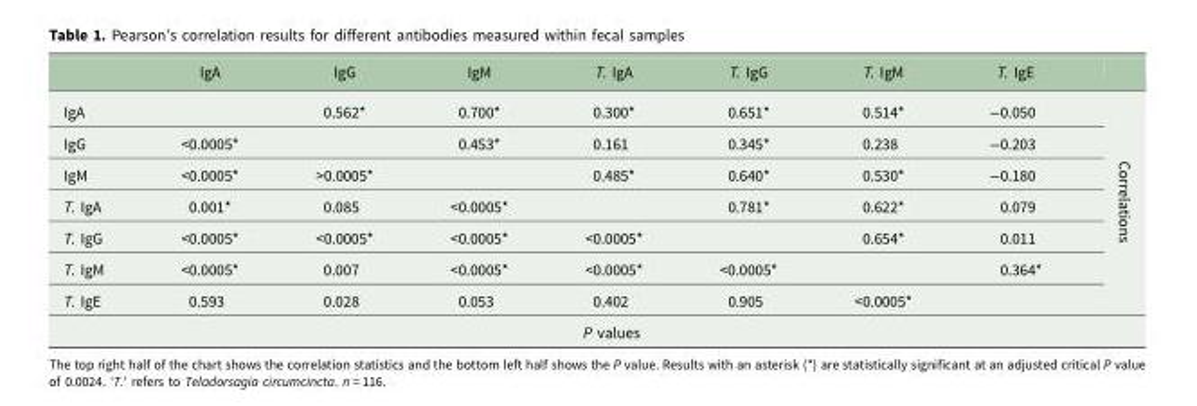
<table><thead><tr><td></td><td>IgA</td><td>IgG</td><td>IgM</td><td>T. IgA</td><td>T. IgG</td><td>T. IgM</td><td>T. IgE</td><td></td></tr></thead><tbody><tr><td>IgA</td><td></td><td>0.562*</td><td>0.700*</td><td>0.300*</td><td>0.651*</td><td>0.514*</td><td>−0.050</td><td rowspan="7">Correlations</td></tr><tr><td>IgG</td><td>&lt;0.0005*</td><td></td><td>0.453*</td><td>0.161</td><td>0.345*</td><td>0.238</td><td>−0.203</td></tr><tr><td>IgM</td><td>&lt;0.0005*</td><td>&gt;0.0005*</td><td></td><td>0.485*</td><td>0.640*</td><td>0.530*</td><td>−0.180</td></tr><tr><td>T. IgA</td><td>0.001*</td><td>0.085</td><td>&lt;0.0005*</td><td></td><td>0.781*</td><td>0.622*</td><td>0.079</td></tr><tr><td>T. IgG</td><td>&lt;0.0005*</td><td>&lt;0.0005*</td><td>&lt;0.0005*</td><td>&lt;0.0005*</td><td></td><td>0.654*</td><td>0.011</td></tr><tr><td>T. IgM</td><td>&lt;0.0005*</td><td>0.007</td><td>&lt;0.0005*</td><td>&lt;0.0005*</td><td>&lt;0.0005*</td><td></td><td>0.364*</td></tr><tr><td rowspan="2">T. IgE</td><td>0.593</td><td>0.028</td><td>0.053</td><td>0.402</td><td>0.905</td><td>&lt;0.0005*</td><td></td></tr><tr><td colspan="7">P values</td><td></td></tr></tbody></table>